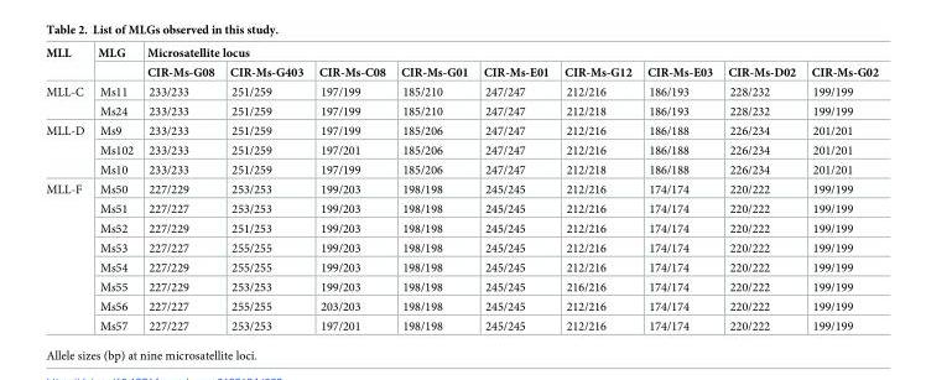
<table><thead><tr><td rowspan="2">MLL</td><td rowspan="2">MLG</td><td colspan="9">Microsatellite locus</td></tr><tr><td>CIR-Ms-G08</td><td>CIR-Ms-G403</td><td>CIR-Ms-C08</td><td>CIR-Ms-G01</td><td>CIR-Ms-E01</td><td>CIR-Ms-G12</td><td>CIR-Ms-E03</td><td>CIR-Ms-D02</td><td>CIR-Ms-G02</td></tr></thead><tbody><tr><td rowspan="2">MLL-C</td><td>Ms11</td><td>233/233</td><td>251/259</td><td>197/199</td><td>185/210</td><td>247/247</td><td>212/216</td><td>186/193</td><td>228/232</td><td>199/199</td></tr><tr><td>Ms24</td><td>233/233</td><td>251/259</td><td>197/199</td><td>185/210</td><td>247/247</td><td>212/218</td><td>186/193</td><td>228/232</td><td>199/199</td></tr><tr><td rowspan="3">MLL-D</td><td>Ms9</td><td>233/233</td><td>251/259</td><td>197/199</td><td>185/206</td><td>247/247</td><td>212/216</td><td>186/188</td><td>226/234</td><td>201/201</td></tr><tr><td>Ms102</td><td>233/233</td><td>251/259</td><td>197/201</td><td>185/206</td><td>247/247</td><td>212/216</td><td>186/188</td><td>226/234</td><td>201/201</td></tr><tr><td>Ms10</td><td>233/233</td><td>251/259</td><td>197/199</td><td>185/206</td><td>247/247</td><td>212/218</td><td>186/188</td><td>226/234</td><td>201/201</td></tr><tr><td rowspan="8">MLL-F</td><td>Ms50</td><td>227/229</td><td>253/253</td><td>199/203</td><td>198/198</td><td>245/245</td><td>212/216</td><td>174/174</td><td>220/222</td><td>199/199</td></tr><tr><td>Ms51</td><td>227/227</td><td>253/253</td><td>199/203</td><td>198/198</td><td>245/245</td><td>212/216</td><td>174/174</td><td>220/222</td><td>199/199</td></tr><tr><td>Ms52</td><td>227/229</td><td>251/253</td><td>199/203</td><td>198/198</td><td>245/245</td><td>212/216</td><td>174/174</td><td>220/222</td><td>199/199</td></tr><tr><td>Ms53</td><td>227/227</td><td>255/255</td><td>199/203</td><td>198/198</td><td>245/245</td><td>212/216</td><td>174/174</td><td>220/222</td><td>199/199</td></tr><tr><td>Ms54</td><td>227/229</td><td>255/255</td><td>199/203</td><td>198/198</td><td>245/245</td><td>212/216</td><td>174/174</td><td>220/222</td><td>199/199</td></tr><tr><td>Ms55</td><td>227/229</td><td>253/253</td><td>199/203</td><td>198/198</td><td>245/245</td><td>216/216</td><td>174/174</td><td>220/222</td><td>199/199</td></tr><tr><td>Ms56</td><td>227/227</td><td>255/255</td><td>203/203</td><td>198/198</td><td>245/245</td><td>212/216</td><td>174/174</td><td>220/222</td><td>199/199</td></tr><tr><td>Ms57</td><td>227/227</td><td>253/253</td><td>197/201</td><td>198/198</td><td>245/245</td><td>212/216</td><td>174/174</td><td>220/222</td><td>199/199</td></tr></tbody></table>